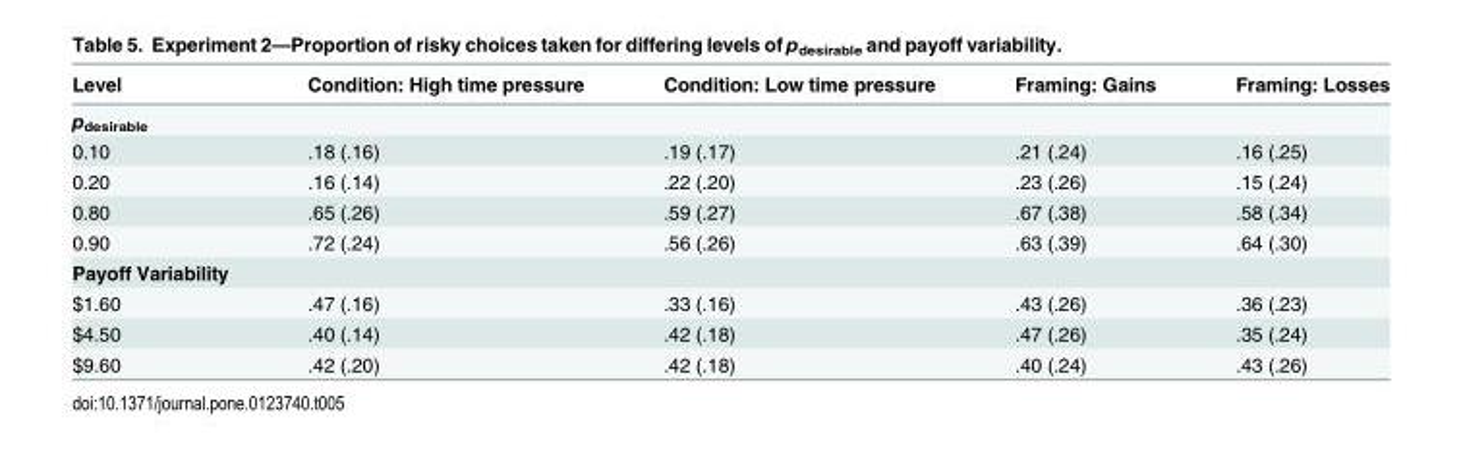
<table><thead><tr><td>Level</td><td>Condition: High time pressure</td><td>Condition: Low time pressure</td><td>Framing: Gains</td><td>Framing: Losses</td></tr></thead><tbody><tr><td colspan="5">p<sub>desirable</sub></td></tr><tr><td>0.10</td><td>.18 (.16)</td><td>.19 (.17)</td><td>.21 (.24)</td><td>.16 (.25)</td></tr><tr><td>0.20</td><td>.16 (.14)</td><td>.22 (.20)</td><td>.23 (.26)</td><td>.15 (.24)</td></tr><tr><td>0.80</td><td>.65 (.26)</td><td>.59 (.27)</td><td>.67 (.38)</td><td>.58 (.34)</td></tr><tr><td>0.90</td><td>.72 (.24)</td><td>.56 (.26)</td><td>.63 (.39)</td><td>.64 (.30)</td></tr><tr><td colspan="5">Payoff Variability</td></tr><tr><td>$1.60</td><td>.47 (.16)</td><td>.33 (.16)</td><td>.43 (.26)</td><td>.36 (.23)</td></tr><tr><td>$4.50</td><td>.40 (.14)</td><td>.42 (.18)</td><td>.47 (.26)</td><td>.35 (.24)</td></tr><tr><td>$9.60</td><td>.42 (.20)</td><td>.42 (.18)</td><td>.40 (.24)</td><td>.43 (.26)</td></tr></tbody></table>